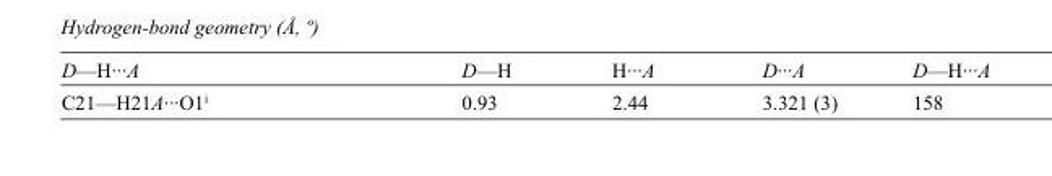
<table><tbody><tr><td>D—H···A</td><td>D—H</td><td>H···A</td><td>D···A</td><td>D—H···A</td></tr><tr><td>C21—H21A···O1<sup>i</sup></td><td>0.93</td><td>2.44</td><td>3.321 (3)</td><td>158</td></tr></tbody></table>